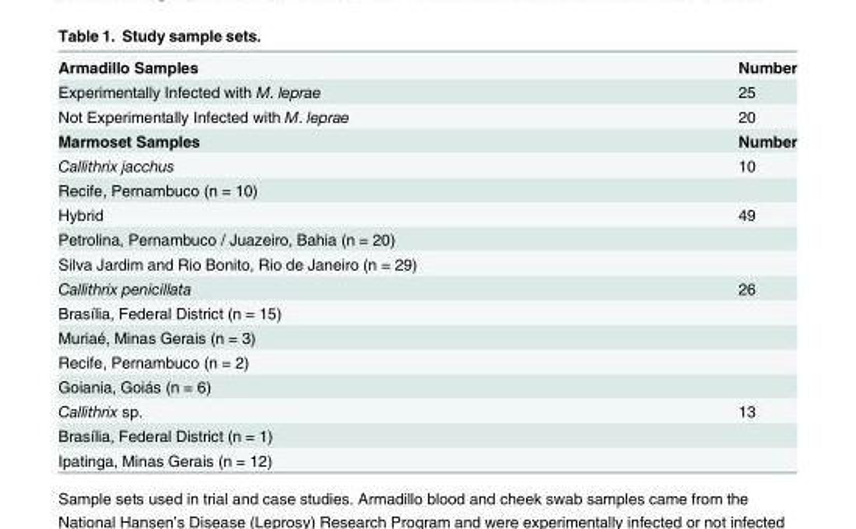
<table><tbody><tr><td>Armadillo Samples</td><td>Number</td></tr><tr><td>Experimentally Infected with M. leprae</td><td>25</td></tr><tr><td>Not Experimentally Infected with M. leprae</td><td>20</td></tr><tr><td>Marmoset Samples</td><td>Number</td></tr><tr><td>Callithrix jacchus</td><td>10</td></tr><tr><td colspan="2">Recife, Pernambuco (n = 10)</td></tr><tr><td>Hybrid</td><td>49</td></tr><tr><td colspan="2">Petrolina, Pernambuco / Juazeiro, Bahia (n = 20)</td></tr><tr><td colspan="2">Silva Jardim and Rio Bonito, Rio de Janeiro (n = 29)</td></tr><tr><td>Callithrix penicillata</td><td>26</td></tr><tr><td colspan="2">Brasília, Federal District (n = 15)</td></tr><tr><td colspan="2">Muriaé, Minas Gerais (n = 3)</td></tr><tr><td colspan="2">Recife, Pernambuco (n = 2)</td></tr><tr><td colspan="2">Goiania, Goiás (n = 6)</td></tr><tr><td>Callithrix sp.</td><td>13</td></tr><tr><td colspan="2">Brasília, Federal District (n = 1)</td></tr><tr><td>Ipatinga, Minas Gerais (n = 12)</td><td></td></tr></tbody></table>